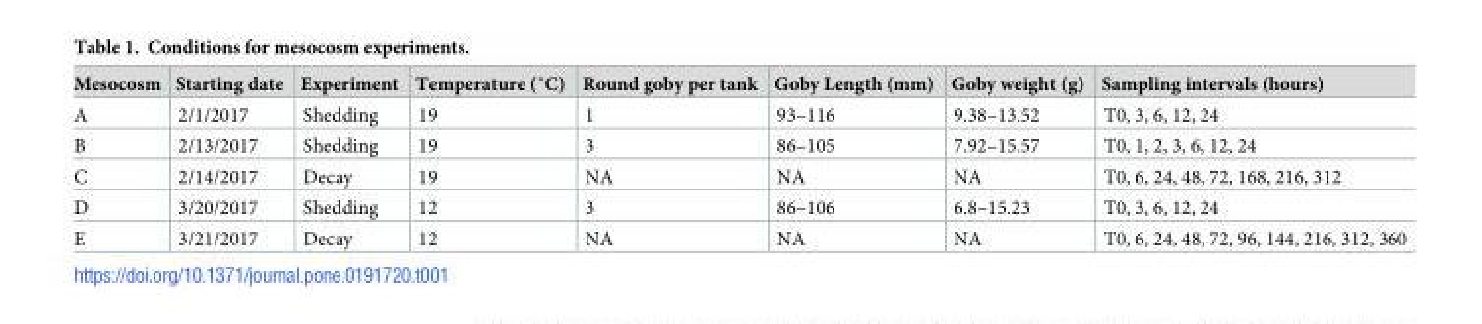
<table><thead><tr><td>Mesocosm</td><td>Starting date</td><td>Experiment</td><td>Temperature (˚C)</td><td>Round goby per tank</td><td>Goby Length (mm)</td><td>Goby weight (g)</td><td>Sampling intervals (hours)</td></tr></thead><tbody><tr><td>A</td><td>2/1/2017</td><td>Shedding</td><td>19</td><td>1</td><td>93–116</td><td>9.38–13.52</td><td>T0, 3, 6, 12, 24</td></tr><tr><td>B</td><td>2/13/2017</td><td>Shedding</td><td>19</td><td>3</td><td>86–105</td><td>7.92–15.57</td><td>T0, 1, 2, 3, 6, 12, 24</td></tr><tr><td>C</td><td>2/14/2017</td><td>Decay</td><td>19</td><td>NA</td><td>NA</td><td>NA</td><td>T0, 6, 24, 48, 72, 168, 216, 312</td></tr><tr><td>D</td><td>3/20/2017</td><td>Shedding</td><td>12</td><td>3</td><td>86–106</td><td>6.8–15.23</td><td>T0, 3, 6, 12, 24</td></tr><tr><td>E</td><td>3/21/2017</td><td>Decay</td><td>12</td><td>NA</td><td>NA</td><td>NA</td><td>T0, 6, 24, 48, 72, 96, 144, 216, 312, 360</td></tr></tbody></table>